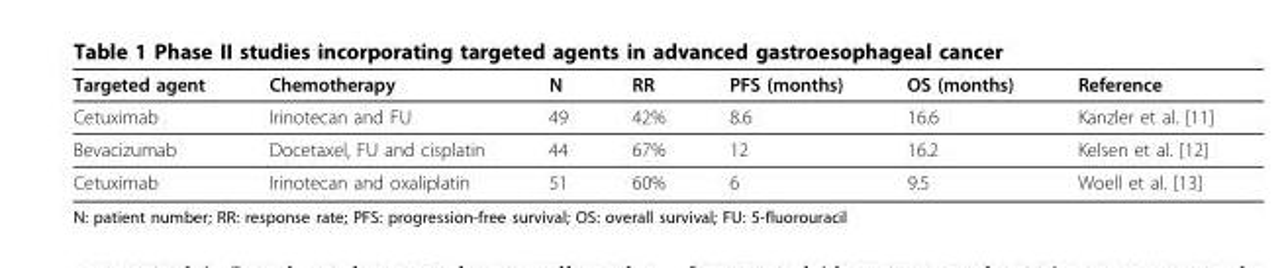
<table><thead><tr><td>Targeted agent</td><td>Chemotherapy</td><td>N</td><td>RR</td><td>PFS (months)</td><td>OS (months)</td><td>Reference</td></tr></thead><tbody><tr><td>Cetuximab</td><td>Irinotecan and FU</td><td>49</td><td>42%</td><td>8.6</td><td>16.6</td><td>Kanzler et al. [11]</td></tr><tr><td>Bevacizumab</td><td>Docetaxel, FU and cisplatin</td><td>44</td><td>67%</td><td>12</td><td>16.2</td><td>Kelsen et al. [12]</td></tr><tr><td>Cetuximab</td><td>Irinotecan and oxaliplatin</td><td>51</td><td>60%</td><td>6</td><td>9.5</td><td>Woell et al. [13]</td></tr></tbody></table>